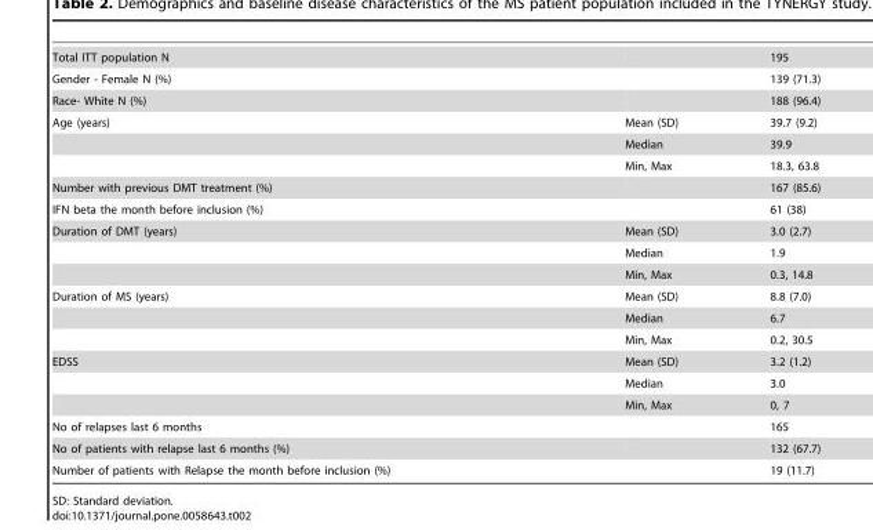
<table><tbody><tr><td>Total ITT population N</td><td></td><td>195</td></tr><tr><td>Gender - Female N (%)</td><td></td><td>139 (71.3)</td></tr><tr><td>Race- White N (%)</td><td></td><td>188 (96.4)</td></tr><tr><td rowspan="3">Age (years)</td><td>Mean (SD)</td><td>39.7 (9.2)</td></tr><tr><td>Median</td><td>39.9</td></tr><tr><td>Min, Max</td><td>18.3, 63.8</td></tr><tr><td>Number with previous DMT treatment (%)</td><td></td><td>167 (85.6)</td></tr><tr><td>IFN beta the month before inclusion (%)</td><td></td><td>61 (38)</td></tr><tr><td rowspan="3">Duration of DMT (years)</td><td>Mean (SD)</td><td>3.0 (2.7)</td></tr><tr><td>Median</td><td>1.9</td></tr><tr><td>Min, Max</td><td>0.3, 14.8</td></tr><tr><td rowspan="3">Duration of MS (years)</td><td>Mean (SD)</td><td>8.8 (7.0)</td></tr><tr><td>Median</td><td>6.7</td></tr><tr><td>Min, Max</td><td>0.2, 30.5</td></tr><tr><td rowspan="3">EDSS</td><td>Mean (SD)</td><td>3.2 (1.2)</td></tr><tr><td>Median</td><td>3.0</td></tr><tr><td>Min, Max</td><td>0, 7</td></tr><tr><td>No of relapses last 6 months</td><td></td><td>165</td></tr><tr><td>No of patients with relapse last 6 months (%)</td><td></td><td>132 (67.7)</td></tr><tr><td>Number of patients with Relapse the month before inclusion (%)</td><td></td><td>19 (11.7)</td></tr></tbody></table>